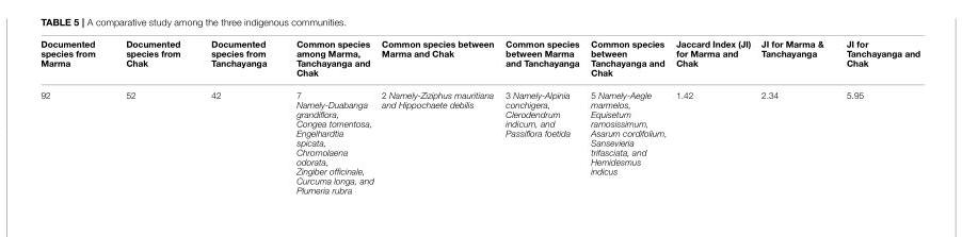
<table><thead><tr><td>Documented species from Marma</td><td>Documented species from Chak</td><td>Documented species from Tanchayanga</td><td>Common species among Marma, Tanchayanga and Chak</td><td>Common species between Marma and Chak</td><td>Common species between Marma and Tanchayanga</td><td>Common species between Tanchayanga and Chak</td><td>Jaccard Index (JI) for Marma and Chak</td><td>JI for Marma &amp; Tanchayanga</td><td>JI for Tanchayanga and Chak</td></tr></thead><tbody><tr><td>92</td><td>52</td><td>42</td><td>7 Namely-Duabanga grandiflora, Congea tomentosa, Engelhardtia spicata, Chromolaena odorata, Zingiber officinale, Curcuma longa, and Plumeria rubra</td><td>2 Namely-Ziziphus mauritiana and Hippochaete debilis</td><td>3 Namely-Alpinia conchigera, Clerodendrum indicum, and Passiflora foetida</td><td>5 Namely-Aegle marmelos, Equisetum ramosissimum, Asarum cordifolium, Sansevieria trifasciata, and Hemidesmus indicus</td><td>1.42</td><td>2.34</td><td>5.95</td></tr></tbody></table>